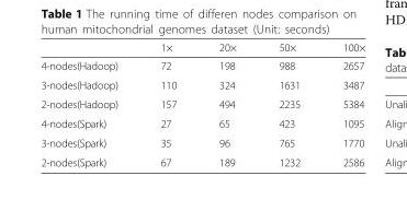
<table><thead><tr><td></td><td>1×</td><td>20×</td><td>50×</td><td>100×</td></tr></thead><tbody><tr><td>4-nodes(Hadoop)</td><td>72</td><td>198</td><td>988</td><td>2657</td></tr><tr><td>3-nodes(Hadoop)</td><td>110</td><td>324</td><td>1631</td><td>3487</td></tr><tr><td>2-nodes(Hadoop)</td><td>157</td><td>494</td><td>2235</td><td>5384</td></tr><tr><td>4-nodes(Spark)</td><td>27</td><td>65</td><td>423</td><td>1095</td></tr><tr><td>3-nodes(Spark)</td><td>35</td><td>96</td><td>765</td><td>1770</td></tr><tr><td>2-nodes(Spark)</td><td>67</td><td>189</td><td>1232</td><td>2586</td></tr></tbody></table>